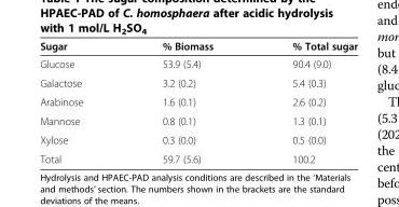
<table><thead><tr><td>Sugar</td><td>% Biomass</td><td>% Total sugar</td></tr></thead><tbody><tr><td>Glucose</td><td>53.9 (5.4)</td><td>90.4 (9.0)</td></tr><tr><td>Galactose</td><td>3.2 (0.2)</td><td>5.4 (0.3)</td></tr><tr><td>Arabinose</td><td>1.6 (0.1)</td><td>2.6 (0.2)</td></tr><tr><td>Mannose</td><td>0.8 (0.1)</td><td>1.3 (0.1)</td></tr><tr><td>Xylose</td><td>0.3 (0.0)</td><td>0.5 (0.0)</td></tr><tr><td>Total</td><td>59.7 (5.6)</td><td>100.2</td></tr></tbody></table>